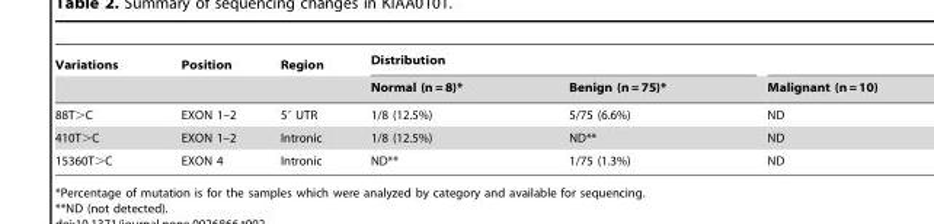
<table><thead><tr><td rowspan="2">Variations</td><td rowspan="2">Position</td><td rowspan="2">Region</td><td colspan="2">Distribution</td><td rowspan="2">Malignant (n = 10)</td></tr><tr><td>Normal (n = 8)*</td><td>Benign (n = 75)*</td></tr></thead><tbody><tr><td>88T&gt;C</td><td>EXON 1–2</td><td>5′ UTR</td><td>1/8 (12.5%)</td><td>5/75 (6.6%)</td><td>ND</td></tr><tr><td>410T&gt;C</td><td>EXON 1–2</td><td>Intronic</td><td>1/8 (12.5%)</td><td>ND**</td><td>ND</td></tr><tr><td>15360T&gt;C</td><td>EXON 4</td><td>Intronic</td><td>ND**</td><td>1/75 (1.3%)</td><td>ND</td></tr></tbody></table>